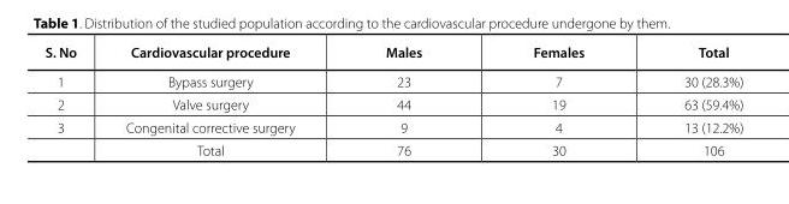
<table><thead><tr><td>S. No</td><td>Cardiovascular procedure</td><td>Males</td><td>Females</td><td>Total</td></tr></thead><tbody><tr><td>1</td><td>Bypass surgery</td><td>23</td><td>7</td><td>30 (28.3%)</td></tr><tr><td>2</td><td>Valve surgery</td><td>44</td><td>19</td><td>63 (59.4%)</td></tr><tr><td rowspan="2">3</td><td>Congenital corrective surgery</td><td>9</td><td>4</td><td>13 (12.2%)</td></tr><tr><td>Total</td><td>76</td><td>30</td><td>106</td></tr></tbody></table>